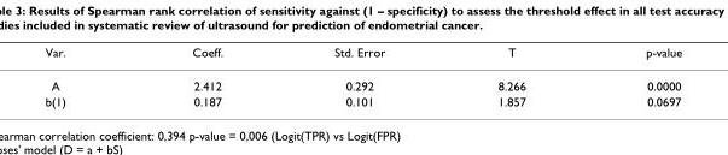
<table><thead><tr><td>Var.</td><td>Coeff.</td><td>Std. Error</td><td>T</td><td>p-value</td></tr></thead><tbody><tr><td>A</td><td>2.412</td><td>0.292</td><td>8.266</td><td>0.0000</td></tr><tr><td>b(1)</td><td>0.187</td><td>0.101</td><td>1.857</td><td>0.0697</td></tr></tbody></table>